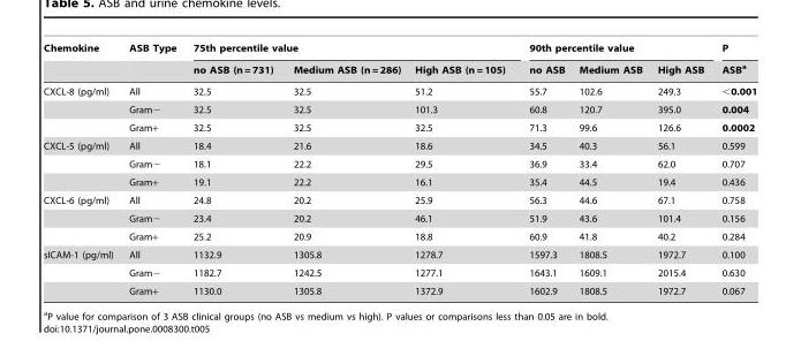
<table><thead><tr><td rowspan="2">Chemokine</td><td rowspan="2">ASB Type</td><td colspan="3">75th percentile value</td><td colspan="3">90th percentile value</td><td rowspan="2">P ASB<sup>a</sup></td></tr><tr><td>no ASB (n = 731)</td><td>Medium ASB (n = 286)</td><td>High ASB (n = 105)</td><td>no ASB</td><td>Medium ASB</td><td>High ASB</td></tr></thead><tbody><tr><td rowspan="3">CXCL-8 (pg/ml)</td><td>All</td><td>32.5</td><td>32.5</td><td>51.2</td><td>55.7</td><td>102.6</td><td>249.3</td><td>&lt;0.001</td></tr><tr><td>Gram−</td><td>32.5</td><td>32.5</td><td>101.3</td><td>60.8</td><td>120.7</td><td>395.0</td><td>0.004</td></tr><tr><td>Gram+</td><td>32.5</td><td>32.5</td><td>32.5</td><td>71.3</td><td>99.6</td><td>126.6</td><td>0.0002</td></tr><tr><td rowspan="3">CXCL-5 (pg/ml)</td><td>All</td><td>18.4</td><td>21.6</td><td>18.6</td><td>34.5</td><td>40.3</td><td>56.1</td><td>0.599</td></tr><tr><td>Gram−</td><td>18.1</td><td>22.2</td><td>29.5</td><td>36.9</td><td>33.4</td><td>62.0</td><td>0.707</td></tr><tr><td>Gram+</td><td>19.1</td><td>22.2</td><td>16.1</td><td>35.4</td><td>44.5</td><td>19.4</td><td>0.436</td></tr><tr><td rowspan="3">CXCL-6 (pg/ml)</td><td>All</td><td>24.8</td><td>20.2</td><td>25.9</td><td>56.3</td><td>44.6</td><td>67.1</td><td>0.758</td></tr><tr><td>Gram−</td><td>23.4</td><td>20.2</td><td>46.1</td><td>51.9</td><td>43.6</td><td>101.4</td><td>0.156</td></tr><tr><td>Gram+</td><td>25.2</td><td>20.9</td><td>18.8</td><td>60.9</td><td>41.8</td><td>40.2</td><td>0.284</td></tr><tr><td rowspan="3">sICAM-1 (pg/ml)</td><td>All</td><td>1132.9</td><td>1305.8</td><td>1278.7</td><td>1597.3</td><td>1808.5</td><td>1972.7</td><td>0.100</td></tr><tr><td>Gram−</td><td>1182.7</td><td>1242.5</td><td>1277.1</td><td>1643.1</td><td>1609.1</td><td>2015.4</td><td>0.630</td></tr><tr><td>Gram+</td><td>1130.0</td><td>1305.8</td><td>1372.9</td><td>1602.9</td><td>1808.5</td><td>1972.7</td><td>0.067</td></tr></tbody></table>